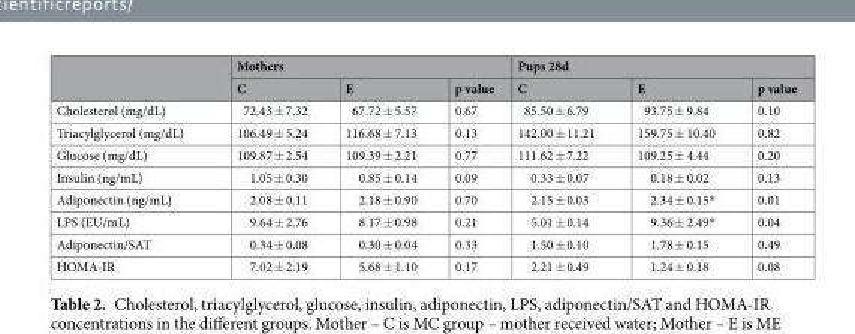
<table><thead><tr><td rowspan="2"></td><td colspan="3">Mothers</td><td colspan="3">Pups 28d</td></tr><tr><td>C</td><td>E</td><td>p value</td><td>C</td><td>E</td><td>p value</td></tr></thead><tbody><tr><td>Cholesterol (mg/dL)</td><td>72.43 ± 7.32</td><td>67.72 ± 5.57</td><td>0.67</td><td>85.50 ± 6.79</td><td>93.75 ± 9.84</td><td>0.10</td></tr><tr><td>Triacylglycerol (mg/dL)</td><td>106.49 ± 5.24</td><td>116.68 ± 7.13</td><td>0.13</td><td>142.00 ± 11.21</td><td>159.75 ± 10.40</td><td>0.82</td></tr><tr><td>Glucose (mg/dL)</td><td>109.87 ± 2.54</td><td>109.39 ± 2.21</td><td>0.77</td><td>111.62 ± 7.22</td><td>109.25 ± 4.44</td><td>0.20</td></tr><tr><td>Insulin (ng/mL)</td><td>1.05 ± 0.30</td><td>0.85 ± 0.14</td><td>0.09</td><td>0.33 ± 0.07</td><td>0.18 ± 0.02</td><td>0.13</td></tr><tr><td>Adiponectin (ng/mL)</td><td>2.08 ± 0.11</td><td>2.18 ± 0.90</td><td>0.70</td><td>2.15 ± 0.03</td><td>2.34 ± 0.15*</td><td>0.01</td></tr><tr><td>LPS (EU/mL)</td><td>9.64 ± 2.76</td><td>8.17 ± 0.98</td><td>0.21</td><td>5.01 ± 0.14</td><td>9.36 ± 2.49*</td><td>0.04</td></tr><tr><td>Adiponectin/SAT</td><td>0.34 ± 0.08</td><td>0.30 ± 0.04</td><td>0.33</td><td>1.50 ± 0.10</td><td>1.78 ± 0.15</td><td>0.49</td></tr><tr><td>HOMA-IR</td><td>7.02 ± 2.19</td><td>5.68 ± 1.10</td><td>0.17</td><td>2.21 ± 0.49</td><td>1.24 ± 0.18</td><td>0.08</td></tr></tbody></table>